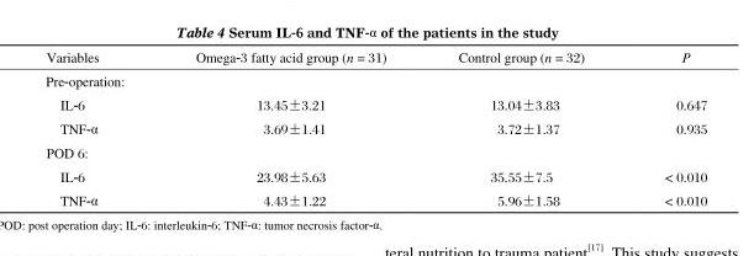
<table><thead><tr><td>Variables</td><td>Omega-3 fatty acid group (n = 31)</td><td>Control group (n = 32)</td><td>P</td></tr></thead><tbody><tr><td colspan="4">Pre-operation:</td></tr><tr><td>IL-6</td><td>13.45±3.21</td><td>013.04±3.83</td><td>&lt; 0.647</td></tr><tr><td>TNF-α</td><td>03.69±1.41</td><td>003.72±1.37</td><td>&lt; 0.935</td></tr><tr><td colspan="4">POD 6:</td></tr><tr><td>IL-6</td><td>23.98±5.63</td><td>35.55±7.5</td><td>&lt; 0.010</td></tr><tr><td>TNF-α</td><td>04.43±1.22</td><td>005.96±1.58</td><td>&lt; 0.010</td></tr></tbody></table>